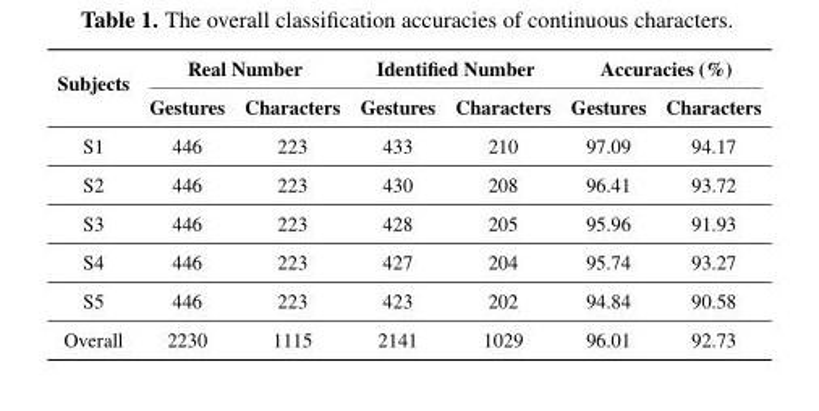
<table><thead><tr><td rowspan="2">Subjects</td><td colspan="2">Real Number</td><td colspan="2">Identified Number</td><td colspan="2">Accuracies (%)</td></tr><tr><td>Gestures</td><td>Characters</td><td>Gestures</td><td>Characters</td><td>Gestures</td><td>Characters</td></tr></thead><tbody><tr><td>S1</td><td>446</td><td>223</td><td>433</td><td>210</td><td>97.09</td><td>94.17</td></tr><tr><td>S2</td><td>446</td><td>223</td><td>430</td><td>208</td><td>96.41</td><td>93.72</td></tr><tr><td>S3</td><td>446</td><td>223</td><td>428</td><td>205</td><td>95.96</td><td>91.93</td></tr><tr><td>S4</td><td>446</td><td>223</td><td>427</td><td>204</td><td>95.74</td><td>93.27</td></tr><tr><td>S5</td><td>446</td><td>223</td><td>423</td><td>202</td><td>94.84</td><td>90.58</td></tr><tr><td>Overall</td><td>2230</td><td>1115</td><td>2141</td><td>1029</td><td>96.01</td><td>92.73</td></tr></tbody></table>